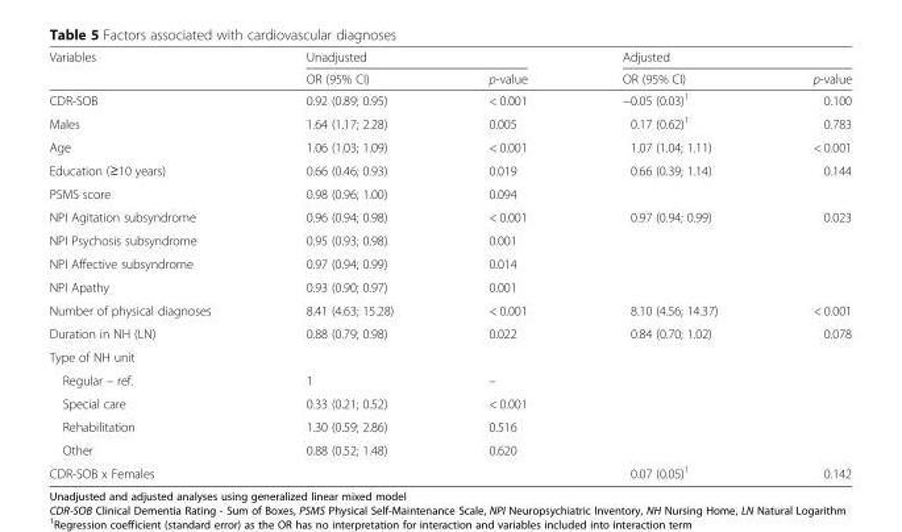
<table><thead><tr><td rowspan="2">Variables</td><td colspan="2">Unadjusted</td><td colspan="2">Adjusted</td></tr><tr><td>OR (95% CI)</td><td>p-value</td><td>OR (95% CI)</td><td>p-value</td></tr></thead><tbody><tr><td>CDR-SOB</td><td>0.92 (0.89; 0.95)</td><td>&lt; 0.001</td><td>−0.05 (0.03)<sup>1</sup></td><td>0.100</td></tr><tr><td>Males</td><td>1.64 (1.17; 2.28)</td><td>0.005</td><td>0.17 (0.62)<sup>1</sup></td><td>0.783</td></tr><tr><td>Age</td><td>1.06 (1.03; 1.09)</td><td>&lt; 0.001</td><td>1.07 (1.04; 1.11)</td><td>&lt; 0.001</td></tr><tr><td>Education (≥10 years)</td><td>0.66 (0.46; 0.93)</td><td>0.019</td><td>0.66 (0.39; 1.14)</td><td>0.144</td></tr><tr><td>PSMS score</td><td>0.98 (0.96; 1.00)</td><td>0.094</td><td></td><td></td></tr><tr><td>NPI Agitation subsyndrome</td><td>0.96 (0.94; 0.98)</td><td>&lt; 0.001</td><td>0.97 (0.94; 0.99)</td><td>0.023</td></tr><tr><td>NPI Psychosis subsyndrome</td><td>0.95 (0.93; 0.98)</td><td>0.001</td><td></td><td></td></tr><tr><td>NPI Affective subsyndrome</td><td>0.97 (0.94; 0.99)</td><td>0.014</td><td></td><td></td></tr><tr><td>NPI Apathy</td><td>0.93 (0.90; 0.97)</td><td>0.001</td><td></td><td></td></tr><tr><td>Number of physical diagnoses</td><td>8.41 (4.63; 15.28)</td><td>&lt; 0.001</td><td>8.10 (4.56; 14.37)</td><td>&lt; 0.001</td></tr><tr><td>Duration in NH (LN)</td><td>0.88 (0.79; 0.98)</td><td>0.022</td><td>0.84 (0.70; 1.02)</td><td>0.078</td></tr><tr><td colspan="5">Type of NH unit</td></tr><tr><td>Regular – ref.</td><td>1</td><td>–</td><td></td><td></td></tr><tr><td>Special care</td><td>0.33 (0.21; 0.52)</td><td>&lt; 0.001</td><td></td><td></td></tr><tr><td>Rehabilitation</td><td>1.30 (0.59; 2.86)</td><td>0.516</td><td></td><td></td></tr><tr><td>Other</td><td>0.88 (0.52; 1.48)</td><td>0.620</td><td></td><td></td></tr><tr><td>CDR-SOB x Females</td><td></td><td></td><td>0.07 (0.05)<sup>1</sup></td><td>0.142</td></tr></tbody></table>